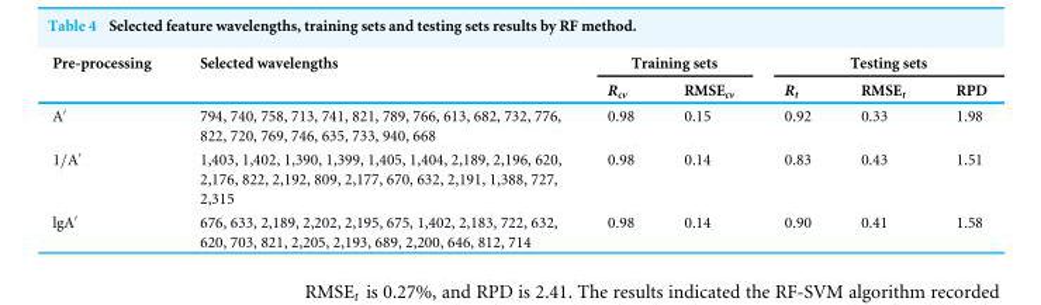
<table><thead><tr><td rowspan="2">Pre-processing</td><td rowspan="2">Selected wavelengths</td><td colspan="2">Training sets</td><td colspan="3">Testing sets</td></tr><tr><td>R<sub>cv</sub></td><td>RMSE<sub>cv</sub></td><td>R<sub>t</sub></td><td>RMSE<sub>t</sub></td><td>RPD</td></tr></thead><tbody><tr><td>A′</td><td>794, 740, 758, 713, 741, 821, 789, 766, 613, 682, 732, 776, 822, 720, 769, 746, 635, 733, 940, 668</td><td>0.98</td><td>0.15</td><td>0.92</td><td>0.33</td><td>1.98</td></tr><tr><td>1/A′</td><td>1,403, 1,402, 1,390, 1,399, 1,405, 1,404, 2,189, 2,196, 620, 2,176, 822, 2,192, 809, 2,177, 670, 632, 2,191, 1,388, 727, 2,315</td><td>0.98</td><td>0.14</td><td>0.83</td><td>0.43</td><td>1.51</td></tr><tr><td>lgA′</td><td>676, 633, 2,189, 2,202, 2,195, 675, 1,402, 2,183, 722, 632, 620, 703, 821, 2,205, 2,193, 689, 2,200, 646, 812, 714</td><td>0.98</td><td>0.14</td><td>0.90</td><td>0.41</td><td>1.58</td></tr></tbody></table>